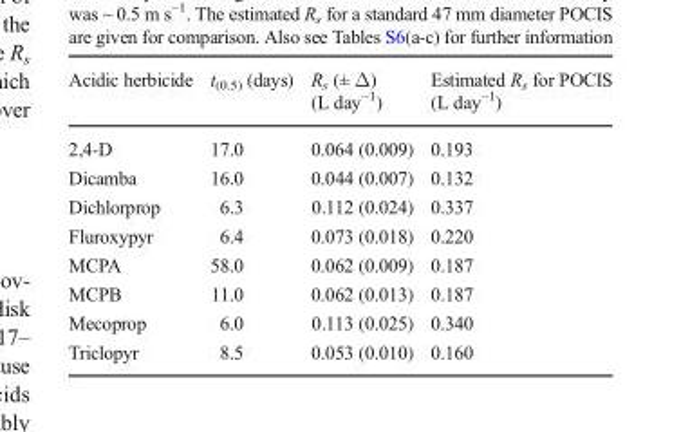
<table><thead><tr><td>Acidic herbicide</td><td>t<sub>(0.5)</sub> (days)</td><td>R<sub>s</sub> (± Δ) (L day<sup>−1</sup>)</td><td>Estimated R<sub>s</sub> for POCIS (L day<sup>−1</sup>)</td></tr></thead><tbody><tr><td>2,4-D</td><td>17.0</td><td>0.064 (0.009)</td><td>0.193</td></tr><tr><td>Dicamba</td><td>16.0</td><td>0.044 (0.007)</td><td>0.132</td></tr><tr><td>Dichlorprop</td><td>6.3</td><td>0.112 (0.024)</td><td>0.337</td></tr><tr><td>Fluroxypyr</td><td>6.4</td><td>0.073 (0.018)</td><td>0.220</td></tr><tr><td>MCPA</td><td>58.0</td><td>0.062 (0.009)</td><td>0.187</td></tr><tr><td>MCPB</td><td>11.0</td><td>0.062 (0.013)</td><td>0.187</td></tr><tr><td>Mecoprop</td><td>6.0</td><td>0.113 (0.025)</td><td>0.340</td></tr><tr><td>Triclopyr</td><td>8.5</td><td>0.053 (0.010)</td><td>0.160</td></tr></tbody></table>